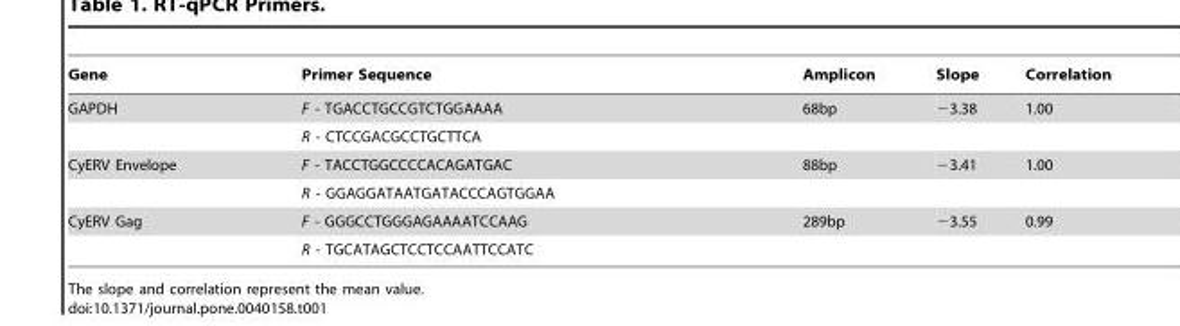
<table><thead><tr><td>Gene</td><td>Primer Sequence</td><td>Amplicon</td><td>Slope</td><td>Correlation</td></tr></thead><tbody><tr><td rowspan="2">GAPDH</td><td>F - TGACCTGCCGTCTGGAAAA</td><td>68bp</td><td>−3.38</td><td>1.00</td></tr><tr><td>R - CTCCGACGCCTGCTTCA</td><td></td><td></td><td></td></tr><tr><td rowspan="2">CyERV Envelope</td><td>F - TACCTGGCCCCACAGATGAC</td><td>88bp</td><td>−3.41</td><td>1.00</td></tr><tr><td>R - GGAGGATAATGATACCCAGTGGAA</td><td></td><td></td><td></td></tr><tr><td rowspan="2">CyERV Gag</td><td>F - GGGCCTGGGAGAAAATCCAAG</td><td>289bp</td><td>−3.55</td><td>0.99</td></tr><tr><td>R - TGCATAGCTCCTCCAATTCCATC</td><td></td><td></td><td></td></tr></tbody></table>